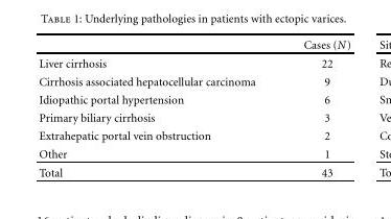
<table><thead><tr><td></td><td>Cases (N)</td></tr></thead><tbody><tr><td>Liver cirrhosis</td><td>22</td></tr><tr><td>Cirrhosis associated hepatocellular carcinoma</td><td>9</td></tr><tr><td>Idiopathic portal hypertension</td><td>6</td></tr><tr><td>Primary biliary cirrhosis</td><td>3</td></tr><tr><td>Extrahepatic portal vein obstruction</td><td>2</td></tr><tr><td>Other</td><td>1</td></tr><tr><td>Total</td><td>43</td></tr></tbody></table>